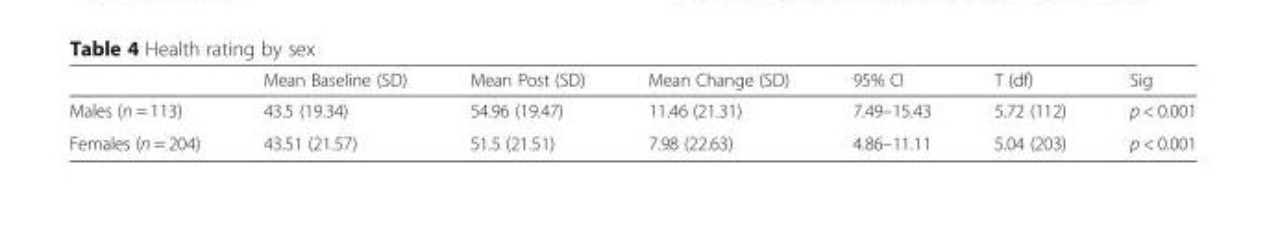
<table><thead><tr><td></td><td>Mean Baseline (SD)</td><td>Mean Post (SD)</td><td>Mean Change (SD)</td><td>95% CI</td><td>T (df)</td><td>Sig</td></tr></thead><tbody><tr><td>Males (n = 113)</td><td>43.5 (19.34)</td><td>54.96 (19.47)</td><td>11.46 (21.31)</td><td>7.49–15.43</td><td>5.72 (112)</td><td>p &lt; 0.001</td></tr><tr><td>Females (n = 204)</td><td>43.51 (21.57)</td><td>51.5 (21.51)</td><td>7.98 (22.63)</td><td>4.86–11.11</td><td>5.04 (203)</td><td>p &lt; 0.001</td></tr></tbody></table>